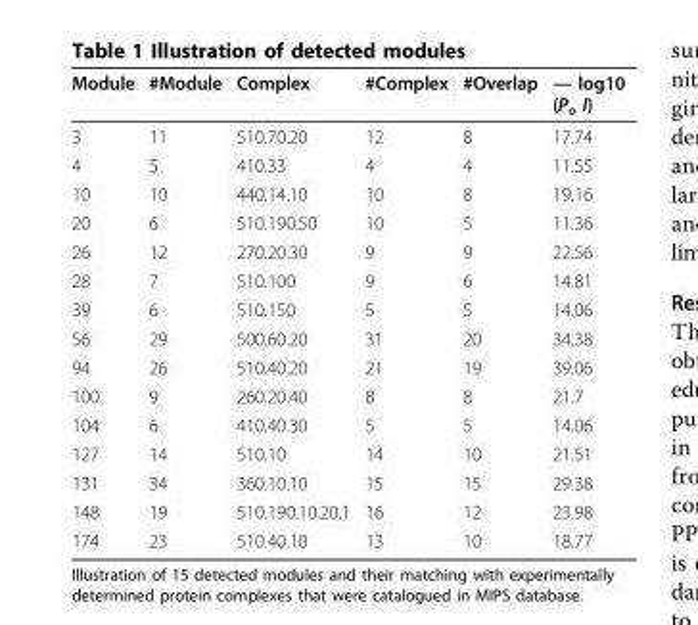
<table><thead><tr><td>Module</td><td>#Module</td><td>Complex</td><td>#Complex</td><td>#Overlap</td><td>— log10 (P<sub>o</sub> I)</td></tr></thead><tbody><tr><td>3</td><td>11</td><td>510.70.20</td><td>12</td><td>8</td><td>17.74</td></tr><tr><td>4</td><td>5</td><td>410.33</td><td>4</td><td>4</td><td>11.55</td></tr><tr><td>10</td><td>10</td><td>440.14.10</td><td>10</td><td>8</td><td>19.16</td></tr><tr><td>20</td><td>6</td><td>510.190.50</td><td>10</td><td>5</td><td>11.36</td></tr><tr><td>26</td><td>12</td><td>270.20.30</td><td>9</td><td>9</td><td>22.56</td></tr><tr><td>28</td><td>7</td><td>510.100</td><td>9</td><td>6</td><td>14.81</td></tr><tr><td>39</td><td>6</td><td>510.150</td><td>5</td><td>5</td><td>14.06</td></tr><tr><td>56</td><td>29</td><td>500.60.20</td><td>31</td><td>20</td><td>34.38</td></tr><tr><td>94</td><td>26</td><td>510.40.20</td><td>21</td><td>19</td><td>39.06</td></tr><tr><td>100</td><td>9</td><td>260.20.40</td><td>8</td><td>8</td><td>21.7</td></tr><tr><td>104</td><td>6</td><td>410.40.30</td><td>5</td><td>5</td><td>14.06</td></tr><tr><td>127</td><td>14</td><td>510.10</td><td>14</td><td>10</td><td>21.51</td></tr><tr><td>131</td><td>34</td><td>360.10.10</td><td>15</td><td>15</td><td>29.38</td></tr><tr><td>148</td><td>19</td><td>510.190.10.20.1</td><td>16</td><td>12</td><td>23.98</td></tr><tr><td>174</td><td>23</td><td>510.40.10</td><td>13</td><td>10</td><td>18.77</td></tr></tbody></table>